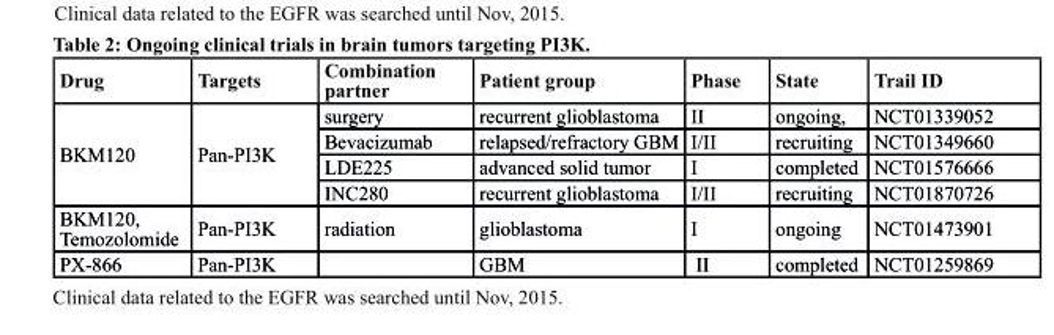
<table><thead><tr><td>drug</td><td>targets</td><td>combination partner</td><td>Patient group</td><td>Phase</td><td>state</td><td>trail Id</td></tr></thead><tbody><tr><td rowspan="4">BKM120</td><td rowspan="4">Pan-PI3K</td><td>surgery</td><td>recurrent glioblastoma</td><td>II</td><td>ongoing,</td><td>NCT01339052</td></tr><tr><td>Bevacizumab</td><td>relapsed/refractory GBM</td><td>I/II</td><td>recruiting</td><td>NCT01349660</td></tr><tr><td>LDE225</td><td>advanced solid tumor</td><td>I</td><td>completed</td><td>NCT01576666</td></tr><tr><td>INC280</td><td>recurrent glioblastoma</td><td>I/II</td><td>recruiting</td><td>NCT01870726</td></tr><tr><td>BKM120, Temozolomide</td><td>Pan-PI3K</td><td>radiation</td><td>glioblastoma</td><td>I</td><td>ongoing</td><td>NCT01473901</td></tr><tr><td>PX-866</td><td>Pan-PI3K</td><td></td><td>GBM</td><td>II</td><td>completed</td><td>NCT01259869</td></tr></tbody></table>